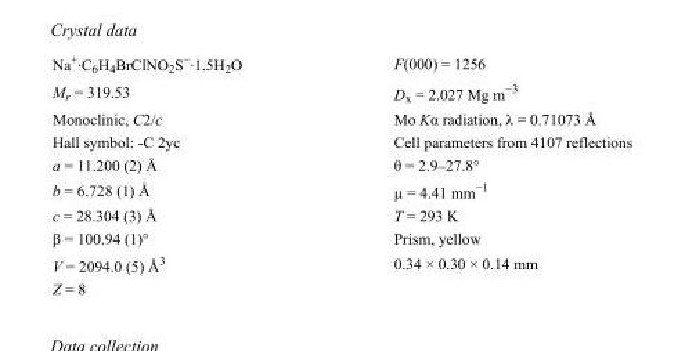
<table><tbody><tr><td>Na<sup>+</sup>·C<sub>6</sub>H<sub>4</sub>BrClNO<sub>2</sub>S<sup>−</sup>·1.5H<sub>2</sub>O</td><td>F(000) = 1256</td></tr><tr><td>M<sub>r</sub> = 319.53</td><td>D<sub>x</sub> = 2.027 Mg m<sup>−3</sup></td></tr><tr><td>Monoclinic, C2/c</td><td>Mo Kα radiation, λ = 0.71073 Å</td></tr><tr><td>Hall symbol: -C 2yc</td><td>Cell parameters from 4107 reflections</td></tr><tr><td>a = 11.200 (2) Å</td><td>θ = 2.9–27.8°</td></tr><tr><td>b = 6.728 (1) Å</td><td>µ = 4.41 mm<sup>−1</sup></td></tr><tr><td>c = 28.304 (3) Å</td><td>T = 293 K</td></tr><tr><td>β = 100.94 (1)°</td><td>Prism, yellow</td></tr><tr><td>V = 2094.0 (5) Å<sup>3</sup></td><td>0.34 × 0.30 × 0.14 mm</td></tr><tr><td>Z = 8</td><td></td></tr></tbody></table>